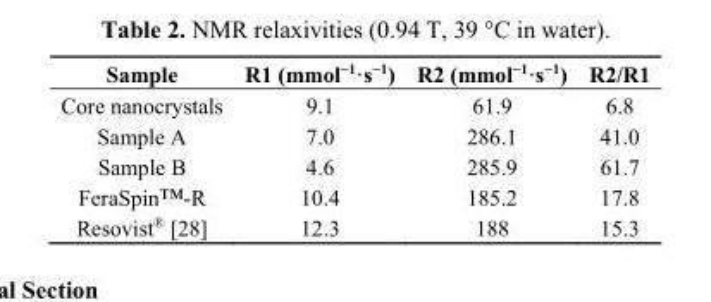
<table><thead><tr><td>Sample</td><td>R1 (mmol<sup>−1</sup>·s<sup>−1</sup>)</td><td>R2 (mmol<sup>−1</sup>·s<sup>−1</sup>)</td><td>R2/R1</td></tr></thead><tbody><tr><td>Core nanocrystals</td><td>9.1</td><td>61.9</td><td>6.8</td></tr><tr><td>Sample A</td><td>7.0</td><td>286.1</td><td>41.0</td></tr><tr><td>Sample B</td><td>4.6</td><td>285.9</td><td>61.7</td></tr><tr><td>FeraSpin™-R</td><td>10.4</td><td>185.2</td><td>17.8</td></tr><tr><td>Resovist<sup>®</sup> [28]</td><td>12.3</td><td>188</td><td>15.3</td></tr></tbody></table>